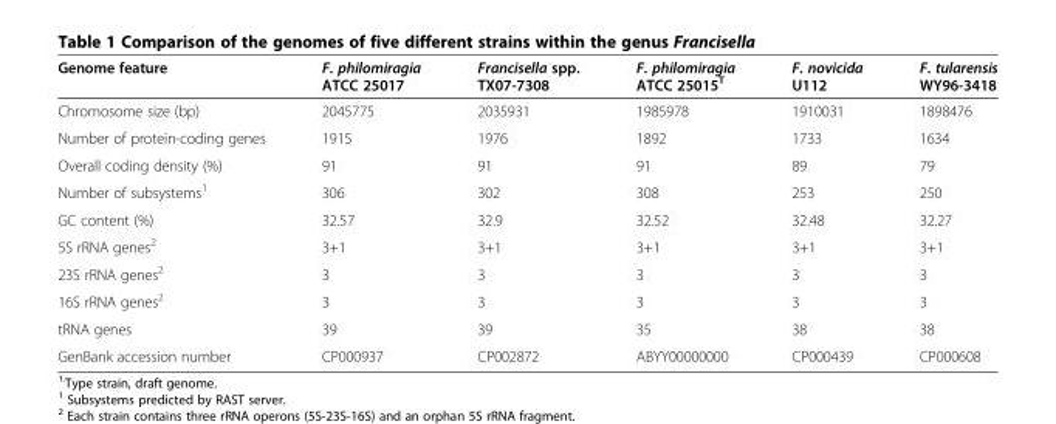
<table><thead><tr><td>Genome feature</td><td>F. philomiragia ATCC 25017</td><td>Francisella spp. TX07-7308</td><td>F. philomiragia ATCC 25015<sup>T</sup></td><td>F. novicida U112</td><td>F. tularensis WY96-3418</td></tr></thead><tbody><tr><td>Chromosome size (bp)</td><td>2045775</td><td>2035931</td><td>1985978</td><td>1910031</td><td>1898476</td></tr><tr><td>Number of protein-coding genes</td><td>1915</td><td>1976</td><td>1892</td><td>1733</td><td>1634</td></tr><tr><td>Overall coding density (%)</td><td>91</td><td>91</td><td>91</td><td>89</td><td>79</td></tr><tr><td>Number of subsystems<sup>1</sup></td><td>306</td><td>302</td><td>308</td><td>253</td><td>250</td></tr><tr><td>GC content (%)</td><td>32.57</td><td>32.9</td><td>32.52</td><td>32.48</td><td>32.27</td></tr><tr><td>5S rRNA genes<sup>2</sup></td><td>3+1</td><td>3+1</td><td>3+1</td><td>3+1</td><td>3+1</td></tr><tr><td>23S rRNA genes<sup>2</sup></td><td>3</td><td>3</td><td>3</td><td>3</td><td>3</td></tr><tr><td>16S rRNA genes<sup>2</sup></td><td>3</td><td>3</td><td>3</td><td>3</td><td>3</td></tr><tr><td>tRNA genes</td><td>39</td><td>39</td><td>35</td><td>38</td><td>38</td></tr><tr><td>GenBank accession number</td><td>CP000937</td><td>CP002872</td><td>ABYY00000000</td><td>CP000439</td><td>CP000608</td></tr></tbody></table>